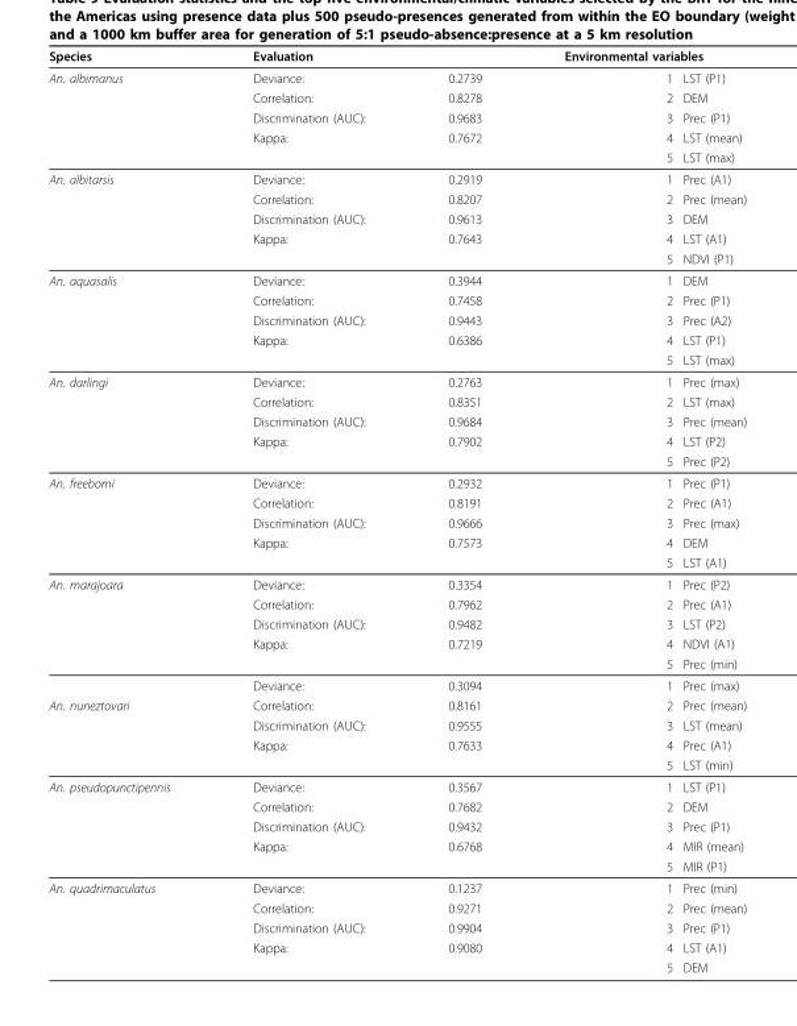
<table><thead><tr><td rowspan="2">Species An. albimanus</td><td colspan="2">Evaluation</td><td colspan="2">Environmental variables</td></tr><tr><td>Deviance:</td><td>0.2739</td><td>1</td><td>LST (P1)</td></tr></thead><tbody><tr><td></td><td>Correlation:</td><td>0.8278</td><td>2</td><td>DEM</td></tr><tr><td></td><td>Discrimination (AUC):</td><td>0.9683</td><td>3</td><td>Prec (P1)</td></tr><tr><td></td><td>Kappa:</td><td>0.7672</td><td>4</td><td>LST (mean)</td></tr><tr><td></td><td></td><td></td><td>5</td><td>LST (max)</td></tr><tr><td rowspan="5">An. albitarsis</td><td>Deviance:</td><td>0.2919</td><td>1</td><td>Prec (A1)</td></tr><tr><td>Correlation:</td><td>0.8207</td><td>2</td><td>Prec (mean)</td></tr><tr><td>Discrimination (AUC):</td><td>0.9613</td><td>3</td><td>DEM</td></tr><tr><td>Kappa:</td><td>0.7643</td><td>4</td><td>LST (A1)</td></tr><tr><td></td><td></td><td>5</td><td>NDVI (P1)</td></tr><tr><td rowspan="5">An. aquasalis</td><td>Deviance:</td><td>0.3944</td><td>1</td><td>DEM</td></tr><tr><td>Correlation:</td><td>0.7458</td><td>2</td><td>Prec (P1)</td></tr><tr><td>Discrimination (AUC):</td><td>0.9443</td><td>3</td><td>Prec (A2)</td></tr><tr><td>Kappa:</td><td>0.6386</td><td>4</td><td>LST (P1)</td></tr><tr><td></td><td></td><td>5</td><td>LST (max)</td></tr><tr><td rowspan="5">An. darlingi</td><td>Deviance:</td><td>0.2763</td><td>1</td><td>Prec (max)</td></tr><tr><td>Correlation:</td><td>0.8351</td><td>2</td><td>LST (max)</td></tr><tr><td>Discrimination (AUC):</td><td>0.9684</td><td>3</td><td>Prec (mean)</td></tr><tr><td>Kappa:</td><td>0.7902</td><td>4</td><td>LST (P2)</td></tr><tr><td></td><td></td><td>5</td><td>Prec (P2)</td></tr><tr><td rowspan="5">An. freeborni</td><td>Deviance:</td><td>0.2932</td><td>1</td><td>Prec (P1)</td></tr><tr><td>Correlation:</td><td>0.8191</td><td>2</td><td>Prec (A1)</td></tr><tr><td>Discrimination (AUC):</td><td>0.9666</td><td>3</td><td>Prec (max)</td></tr><tr><td>Kappa:</td><td>0.7573</td><td>4</td><td>DEM</td></tr><tr><td></td><td></td><td>5</td><td>LST (A1)</td></tr><tr><td rowspan="6">An. marajoara</td><td>Deviance:</td><td>0.3354</td><td>1</td><td>Prec (P2)</td></tr><tr><td>Correlation:</td><td>0.7962</td><td>2</td><td>Prec (A1)</td></tr><tr><td>Discrimination (AUC):</td><td>0.9482</td><td>3</td><td>LST (P2)</td></tr><tr><td>Kappa:</td><td>0.7219</td><td>4</td><td>NDVI (A1)</td></tr><tr><td></td><td></td><td>5</td><td>Prec (min)</td></tr><tr><td>Deviance:</td><td>0.3094</td><td>1</td><td>Prec (max)</td></tr><tr><td rowspan="4">An. nuneztovari</td><td>Correlation:</td><td>0.8161</td><td>2</td><td>Prec (mean)</td></tr><tr><td>Discrimination (AUC):</td><td>0.9555</td><td>3</td><td>LST (mean)</td></tr><tr><td>Kappa:</td><td>0.7633</td><td>4</td><td>Prec (A1)</td></tr><tr><td></td><td></td><td>5</td><td>LST (min)</td></tr><tr><td rowspan="5">An. pseudopunctipennis</td><td>Deviance:</td><td>0.3567</td><td>1</td><td>LST (P1)</td></tr><tr><td>Correlation:</td><td>0.7682</td><td>2</td><td>DEM</td></tr><tr><td>Discrimination (AUC):</td><td>0.9432</td><td>3</td><td>Prec (P1)</td></tr><tr><td>Kappa:</td><td>0.6768</td><td>4</td><td>MIR (mean)</td></tr><tr><td></td><td></td><td>5</td><td>MIR (P1)</td></tr><tr><td rowspan="5">An. quadrimaculatus</td><td>Deviance:</td><td>0.1237</td><td>1</td><td>Prec (min)</td></tr><tr><td>Correlation:</td><td>0.9271</td><td>2</td><td>Prec (mean)</td></tr><tr><td>Discrimination (AUC):</td><td>0.9904</td><td>3</td><td>Prec (P1)</td></tr><tr><td>Kappa:</td><td>0.9080</td><td>4</td><td>LST (A1)</td></tr><tr><td></td><td></td><td>5</td><td>DEM</td></tr></tbody></table>